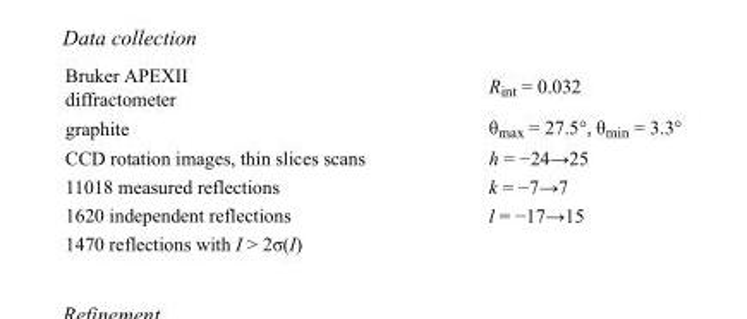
<table><tbody><tr><td>Bruker APEXII diffractometer</td><td>R<sub>int</sub> = 0.032</td></tr><tr><td>graphite</td><td>θ<sub>max</sub> = 27.5°, θ<sub>min</sub> = 3.3°</td></tr><tr><td>CCD rotation images, thin slices scans</td><td>h = −24→25</td></tr><tr><td>11018 measured reflections</td><td>k = −7→7</td></tr><tr><td>1620 independent reflections</td><td>l = −17→15</td></tr><tr><td>1470 reflections with I &gt; 2σ(I)</td><td></td></tr></tbody></table>